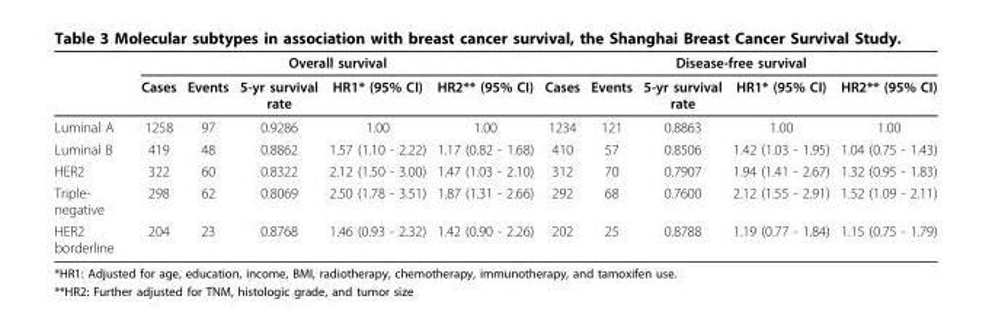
<table><thead><tr><td rowspan="2"></td><td colspan="5">Overall survival</td><td colspan="5">Disease-free survival</td></tr><tr><td>Cases</td><td>Events</td><td>5-yr survival rate</td><td>HR1* (95% CI)</td><td>HR2** (95% CI)</td><td>Cases</td><td>Events</td><td>5-yr survival rate</td><td>HR1* (95% CI)</td><td>HR2** (95% CI)</td></tr></thead><tbody><tr><td>Luminal A</td><td>1258</td><td>97</td><td>0.9286</td><td>1.00</td><td>1.00</td><td>1234</td><td>121</td><td>0.8863</td><td>1.00</td><td>1.00</td></tr><tr><td>Luminal B</td><td>419</td><td>48</td><td>0.8862</td><td>1.57 (1.10 - 2.22)</td><td>1.17 (0.82 - 1.68)</td><td>410</td><td>57</td><td>0.8506</td><td>1.42 (1.03 - 1.95)</td><td>1.04 (0.75 - 1.43)</td></tr><tr><td>HER2</td><td>322</td><td>60</td><td>0.8322</td><td>2.12 (1.50 - 3.00)</td><td>1.47 (1.03 - 2.10)</td><td>312</td><td>70</td><td>0.7907</td><td>1.94 (1.41 - 2.67)</td><td>1.32 (0.95 - 1.83)</td></tr><tr><td>Triple- negative</td><td>298</td><td>62</td><td>0.8069</td><td>2.50 (1.78 - 3.51)</td><td>1.87 (1.31 - 2.66)</td><td>292</td><td>68</td><td>0.7600</td><td>2.12 (1.55 - 2.91)</td><td>1.52 (1.09 - 2.11)</td></tr><tr><td>HER2 borderline</td><td>204</td><td>23</td><td>0.8768</td><td>1.46 (0.93 - 2.32)</td><td>1.42 (0.90 - 2.26)</td><td>202</td><td>25</td><td>0.8788</td><td>1.19 (0.77 - 1.84)</td><td>1.15 (0.75 - 1.79)</td></tr></tbody></table>